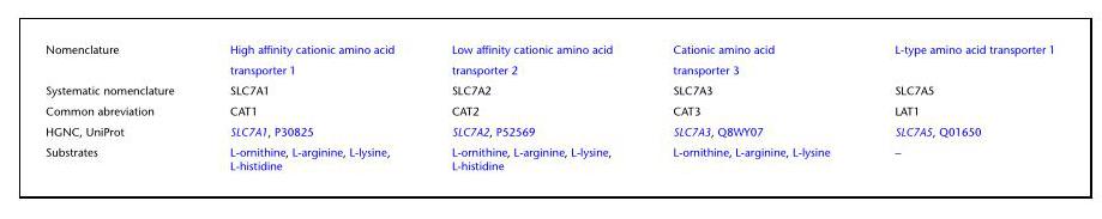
<table><tbody><tr><td rowspan="2">Nomenclature</td><td>High affinity cationic amino acid</td><td>Low affinity cationic amino acid</td><td>Cationic amino acid</td><td>L-type amino acid transporter 1</td></tr><tr><td>transporter 1</td><td>transporter 2</td><td>transporter 3</td><td></td></tr><tr><td>Systematic nomenclature</td><td>SLC7A1</td><td>SLC7A2</td><td>SLC7A3</td><td>SLC7A5</td></tr><tr><td>Common abreviation</td><td>CAT1</td><td>CAT2</td><td>CAT3</td><td>LAT1</td></tr><tr><td>HGNC, UniProt</td><td>SLC7A1, P30825</td><td>SLC7A2, P52569</td><td>SLC7A3, Q8WY07</td><td>SLC7A5, Q01650</td></tr><tr><td>Substrates</td><td>L-ornithine, L-arginine, L-lysine, L-histidine</td><td>L-ornithine, L-arginine, L-lysine, L-histidine</td><td>L-ornithine, L-arginine, L-lysine</td><td>–</td></tr></tbody></table>